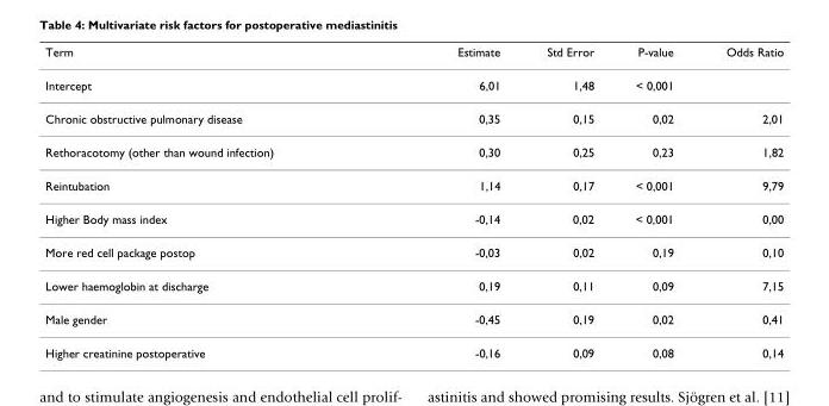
<table><thead><tr><td>Term</td><td>Estimate</td><td>Std Error</td><td>P-value</td><td>Odds Ratio</td></tr></thead><tbody><tr><td>Intercept</td><td>6,01</td><td>1,48</td><td>&lt; 0,001</td><td></td></tr><tr><td>Chronic obstructive pulmonary disease</td><td>0,35</td><td>0,15</td><td>0,02</td><td>2,01</td></tr><tr><td>Rethoracotomy (other than wound infection)</td><td>0,30</td><td>0,25</td><td>0,23</td><td>1,82</td></tr><tr><td>Reintubation</td><td>1,14</td><td>0,17</td><td>&lt; 0,001</td><td>9,79</td></tr><tr><td>Higher Body mass index</td><td>-0,14</td><td>0,02</td><td>&lt; 0,001</td><td>0,00</td></tr><tr><td>More red cell package postop</td><td>-0,03</td><td>0,02</td><td>0,19</td><td>0,10</td></tr><tr><td>Lower haemoglobin at discharge</td><td>0,19</td><td>0,11</td><td>0,09</td><td>7,15</td></tr><tr><td>Male gender</td><td>-0,45</td><td>0,19</td><td>0,02</td><td>0,41</td></tr><tr><td>Higher creatinine postoperative</td><td>-0,16</td><td>0,09</td><td>0,08</td><td>0,14</td></tr></tbody></table>